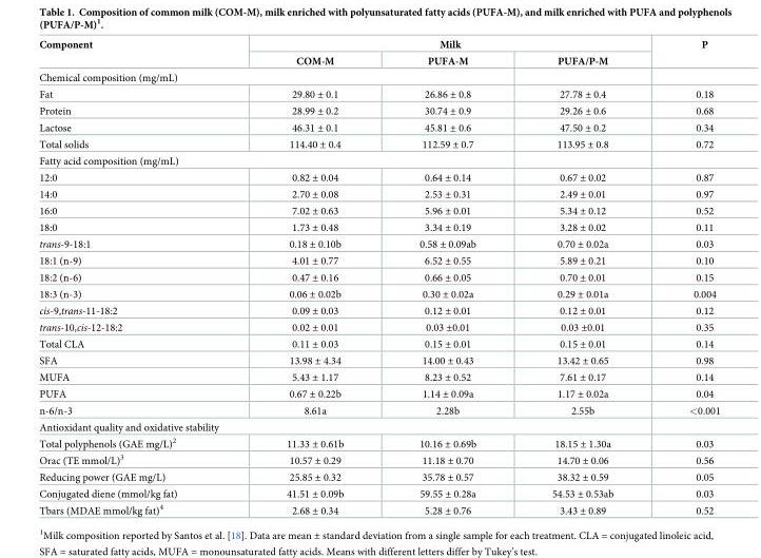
<table><thead><tr><td rowspan="2">Component</td><td colspan="3">Milk</td><td rowspan="2">P</td></tr><tr><td>COM-M</td><td>PUFA-M</td><td>PUFA/P-M</td></tr></thead><tbody><tr><td colspan="5">Chemical composition (mg/mL)</td></tr><tr><td>Fat</td><td>29.80 ± 0.1</td><td>26.86 ± 0.8</td><td>27.78 ± 0.4</td><td>0.18</td></tr><tr><td>Protein</td><td>28.99 ± 0.2</td><td>30.74 ± 0.9</td><td>29.26 ± 0.6</td><td>0.68</td></tr><tr><td>Lactose</td><td>46.31 ± 0.1</td><td>45.81 ± 0.6</td><td>47.50 ± 0.2</td><td>0.34</td></tr><tr><td>Total solids</td><td>114.40 ± 0.4</td><td>112.59 ± 0.7</td><td>113.95 ± 0.8</td><td>0.72</td></tr><tr><td colspan="5">Fatty acid composition (mg/mL)</td></tr><tr><td>12:0</td><td>0.82 ± 0.04</td><td>0.64 ± 0.14</td><td>0.67 ± 0.02</td><td>0.87</td></tr><tr><td>14:0</td><td>2.70 ± 0.08</td><td>2.53 ± 0.31</td><td>2.49 ± 0.01</td><td>0.97</td></tr><tr><td>16:0</td><td>7.02 ± 0.63</td><td>5.96 ± 0.01</td><td>5.34 ± 0.12</td><td>0.52</td></tr><tr><td>18:0</td><td>1.73 ± 0.48</td><td>3.34 ± 0.19</td><td>3.28 ± 0.02</td><td>0.11</td></tr><tr><td>trans-9-18:1</td><td>0.18 ± 0.10b</td><td>0.58 ± 0.09ab</td><td>0.70 ± 0.02a</td><td>0.03</td></tr><tr><td>18:1 (n-9)</td><td>4.01 ± 0.77</td><td>6.52 ± 0.55</td><td>5.89 ± 0.21</td><td>0.10</td></tr><tr><td>18:2 (n-6)</td><td>0.47 ± 0.16</td><td>0.66 ± 0.05</td><td>0.70 ± 0.01</td><td>0.15</td></tr><tr><td>18:3 (n-3)</td><td>0.06 ± 0.02b</td><td>0.30 ± 0.02a</td><td>0.29 ± 0.01a</td><td>0.004</td></tr><tr><td>cis-9,trans-11-18:2</td><td>0.09 ± 0.03</td><td>0.12 ± 0.01</td><td>0.12 ± 0.01</td><td>0.12</td></tr><tr><td>trans-10,cis-12-18:2</td><td>0.02 ± 0.01</td><td>0.03 ±0.01</td><td>0.03 ±0.01</td><td>0.35</td></tr><tr><td>Total CLA</td><td>0.11 ± 0.03</td><td>0.15 ± 0.01</td><td>0.15 ± 0.01</td><td>0.14</td></tr><tr><td>SFA</td><td>13.98 ± 4.34</td><td>14.00 ± 0.43</td><td>13.42 ± 0.65</td><td>0.98</td></tr><tr><td>MUFA</td><td>5.43 ± 1.17</td><td>8.23 ± 0.52</td><td>7.61 ± 0.17</td><td>0.14</td></tr><tr><td>PUFA</td><td>0.67 ± 0.22b</td><td>1.14 ± 0.09a</td><td>1.17 ± 0.02a</td><td>0.04</td></tr><tr><td>n-6/n-3</td><td>8.61a</td><td>2.28b</td><td>2.55b</td><td>&lt;0.001</td></tr><tr><td colspan="5">Antioxidant quality and oxidative stability</td></tr><tr><td>Total polyphenols (GAE mg/L)<sup>2</sup></td><td>11.33 ± 0.61b</td><td>10.16 ± 0.69b</td><td>18.15 ± 1.30a</td><td>0.03</td></tr><tr><td>Orac (TE mmol/L)<sup>3</sup></td><td>10.57 ± 0.29</td><td>11.18 ± 0.70</td><td>14.70 ± 0.06</td><td>0.56</td></tr><tr><td>Reducing power (GAE mg/L)</td><td>25.85 ± 0.32</td><td>35.78 ± 0.57</td><td>38.32 ± 0.59</td><td>0.05</td></tr><tr><td>Conjugated diene (mmol/kg fat)</td><td>41.51 ± 0.09b</td><td>59.55 ± 0.28a</td><td>54.53 ± 0.53ab</td><td>0.03</td></tr><tr><td>Tbars (MDAE mmol/kg fat)<sup>4</sup></td><td>2.68 ± 0.34</td><td>5.28 ± 0.76</td><td>3.43 ± 0.89</td><td>0.52</td></tr></tbody></table>